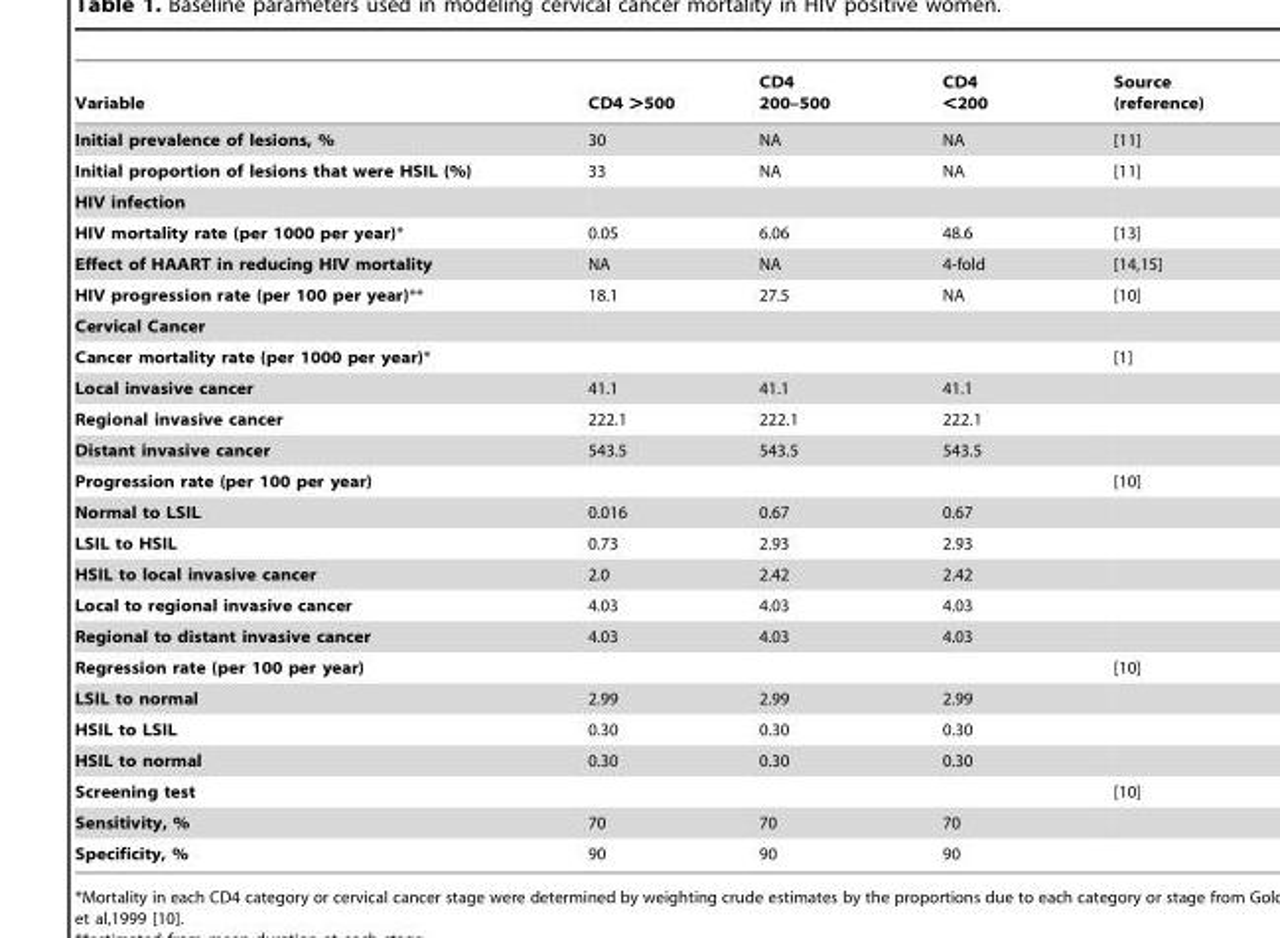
<table><thead><tr><td>Variable</td><td>CD4 &gt;500</td><td>CD4 200–500</td><td>CD4 &lt;200</td><td>Source (reference)</td></tr></thead><tbody><tr><td>Initial prevalence of lesions, %</td><td>30</td><td>NA</td><td>NA</td><td>[11]</td></tr><tr><td>Initial proportion of lesions that were HSIL (%)</td><td>33</td><td>NA</td><td>NA</td><td>[11]</td></tr><tr><td colspan="5">HIV infection</td></tr><tr><td>HIV mortality rate (per 1000 per year)*</td><td>0.05</td><td>6.06</td><td>48.6</td><td>[13]</td></tr><tr><td>Effect of HAART in reducing HIV mortality</td><td>NA</td><td>NA</td><td>4-fold</td><td>[14,15]</td></tr><tr><td>HIV progression rate (per 100 per year)**</td><td>18.1</td><td>27.5</td><td>NA</td><td>[10]</td></tr><tr><td colspan="5">Cervical Cancer</td></tr><tr><td>Cancer mortality rate (per 1000 per year)*</td><td></td><td></td><td></td><td>[1]</td></tr><tr><td>Local invasive cancer</td><td>41.1</td><td>41.1</td><td>41.1</td><td></td></tr><tr><td>Regional invasive cancer</td><td>222.1</td><td>222.1</td><td>222.1</td><td></td></tr><tr><td>Distant invasive cancer</td><td>543.5</td><td>543.5</td><td>543.5</td><td></td></tr><tr><td>Progression rate (per 100 per year)</td><td></td><td></td><td></td><td>[10]</td></tr><tr><td>Normal to LSIL</td><td>0.016</td><td>0.67</td><td>0.67</td><td></td></tr><tr><td>LSIL to HSIL</td><td>0.73</td><td>2.93</td><td>2.93</td><td></td></tr><tr><td>HSIL to local invasive cancer</td><td>2.0</td><td>2.42</td><td>2.42</td><td></td></tr><tr><td>Local to regional invasive cancer</td><td>4.03</td><td>4.03</td><td>4.03</td><td></td></tr><tr><td>Regional to distant invasive cancer</td><td>4.03</td><td>4.03</td><td>4.03</td><td></td></tr><tr><td>Regression rate (per 100 per year)</td><td></td><td></td><td></td><td>[10]</td></tr><tr><td>LSIL to normal</td><td>2.99</td><td>2.99</td><td>2.99</td><td></td></tr><tr><td>HSIL to LSIL</td><td>0.30</td><td>0.30</td><td>0.30</td><td></td></tr><tr><td>HSIL to normal</td><td>0.30</td><td>0.30</td><td>0.30</td><td></td></tr><tr><td>Screening test</td><td></td><td></td><td></td><td>[10]</td></tr><tr><td>Sensitivity, %</td><td>70</td><td>70</td><td>70</td><td></td></tr><tr><td>Specificity, %</td><td>90</td><td>90</td><td>90</td><td></td></tr></tbody></table>